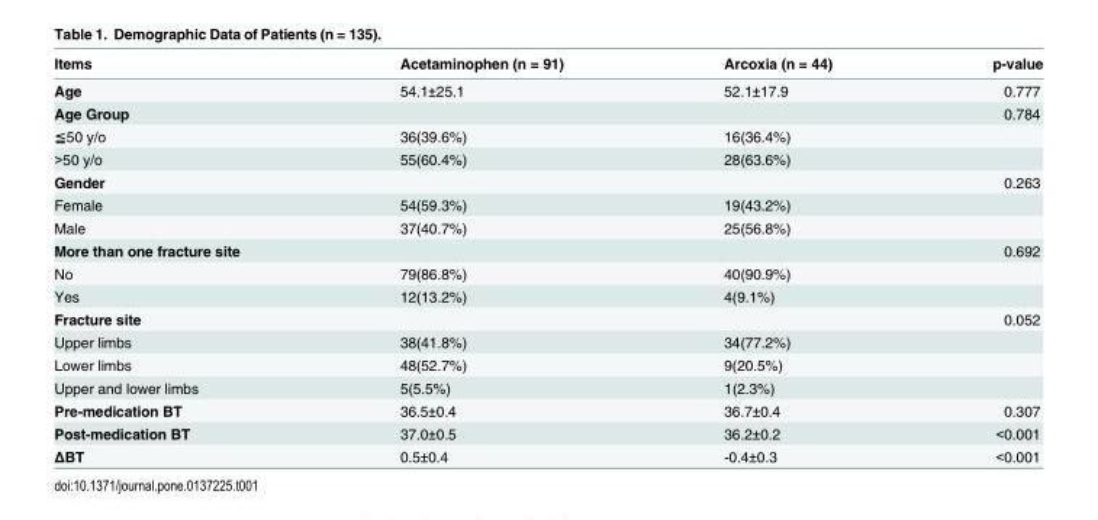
<table><thead><tr><td>Items</td><td>Acetaminophen (n = 91)</td><td>Arcoxia (n = 44)</td><td>p-value</td></tr></thead><tbody><tr><td>Age</td><td>54.1±25.1</td><td>52.1±17.9</td><td>0.777</td></tr><tr><td>Age Group</td><td></td><td></td><td>0.784</td></tr><tr><td>≦50 y/o</td><td>36(39.6%)</td><td>16(36.4%)</td><td></td></tr><tr><td>&gt;50 y/o</td><td>55(60.4%)</td><td>28(63.6%)</td><td></td></tr><tr><td>Gender</td><td></td><td></td><td>0.263</td></tr><tr><td>Female</td><td>54(59.3%)</td><td>19(43.2%)</td><td></td></tr><tr><td>Male</td><td>37(40.7%)</td><td>25(56.8%)</td><td></td></tr><tr><td>More than one fracture site</td><td></td><td></td><td>0.692</td></tr><tr><td>No</td><td>79(86.8%)</td><td>40(90.9%)</td><td></td></tr><tr><td>Yes</td><td>12(13.2%)</td><td>4(9.1%)</td><td></td></tr><tr><td>Fracture site</td><td></td><td></td><td>0.052</td></tr><tr><td>Upper limbs</td><td>38(41.8%)</td><td>34(77.2%)</td><td></td></tr><tr><td>Lower limbs</td><td>48(52.7%)</td><td>9(20.5%)</td><td></td></tr><tr><td>Upper and lower limbs</td><td>5(5.5%)</td><td>1(2.3%)</td><td></td></tr><tr><td>Pre-medication BT</td><td>36.5±0.4</td><td>36.7±0.4</td><td>0.307</td></tr><tr><td>Post-medication BT</td><td>37.0±0.5</td><td>36.2±0.2</td><td>&lt;0.001</td></tr><tr><td>ΔBT</td><td>0.5±0.4</td><td>-0.4±0.3</td><td>&lt;0.001</td></tr></tbody></table>